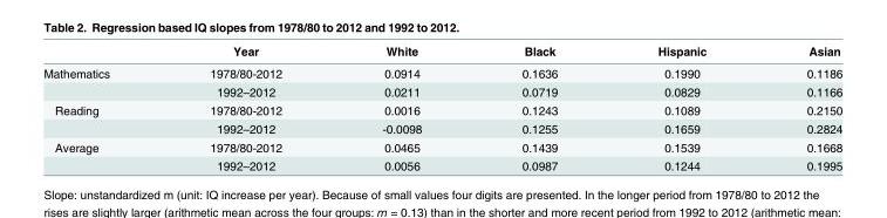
<table><thead><tr><td></td><td>Year</td><td>White</td><td>Black</td><td>Hispanic</td><td>Asian</td></tr></thead><tbody><tr><td rowspan="2">Mathematics</td><td>1978/80-2012</td><td>0.0914</td><td>0.1636</td><td>0.1990</td><td>0.1186</td></tr><tr><td>1992–2012</td><td>0.0211</td><td>0.0719</td><td>0.0829</td><td>0.1166</td></tr><tr><td rowspan="2">Reading</td><td>1978/80-2012</td><td>0.0016</td><td>0.1243</td><td>0.1089</td><td>0.2150</td></tr><tr><td>1992–2012</td><td>-0.0098</td><td>0.1255</td><td>0.1659</td><td>0.2824</td></tr><tr><td rowspan="2">Average</td><td>1978/80-2012</td><td>0.0465</td><td>0.1439</td><td>0.1539</td><td>0.1668</td></tr><tr><td>1992–2012</td><td>0.0056</td><td>0.0987</td><td>0.1244</td><td>0.1995</td></tr></tbody></table>